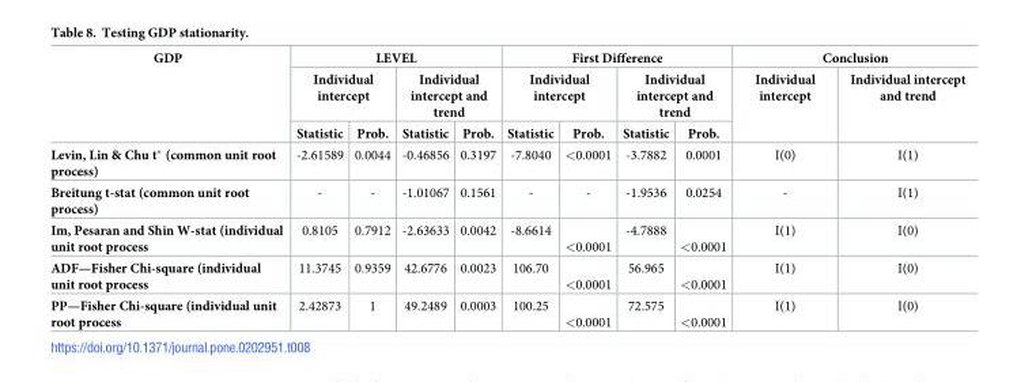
<table><thead><tr><td rowspan="3">GDP</td><td colspan="4">LEVEL</td><td colspan="4">First Difference</td><td colspan="2">Conclusion</td></tr><tr><td colspan="2">Individual intercept</td><td colspan="2">Individual intercept and trend</td><td colspan="2">Individual intercept</td><td colspan="2">Individual intercept and trend</td><td rowspan="2">Individual intercept</td><td rowspan="2">Individual intercept and trend</td></tr><tr><td>Statistic</td><td>Prob.</td><td>Statistic</td><td>Prob.</td><td>Statistic</td><td>Prob.</td><td>Statistic</td><td>Prob.</td></tr></thead><tbody><tr><td>Levin, Lin &amp; Chu t* (common unit root process)</td><td>-2.61589</td><td>0.0044</td><td>-0.46856</td><td>0.3197</td><td>-7.8040</td><td>&lt;0.0001</td><td>-3.7882</td><td>0.0001</td><td>I(0)</td><td>I(1)</td></tr><tr><td>Breitung t-stat (common unit root process)</td><td>-</td><td>-</td><td>-1.01067</td><td>0.1561</td><td>-</td><td>-</td><td>-1.9536</td><td>0.0254</td><td>-</td><td>I(1)</td></tr><tr><td>Im, Pesaran and Shin W-stat (individual unit root process</td><td>0.8105</td><td>0.7912</td><td>-2.63633</td><td>0.0042</td><td>-8.6614</td><td>&lt;0.0001</td><td>-4.7888</td><td>&lt;0.0001</td><td>I(1)</td><td>I(0)</td></tr><tr><td>ADF—Fisher Chi-square (individual unit root process</td><td>11.3745</td><td>0.9359</td><td>42.6776</td><td>0.0023</td><td>106.70</td><td>&lt;0.0001</td><td>56.965</td><td>&lt;0.0001</td><td>I(1)</td><td>I(0)</td></tr><tr><td>PP—Fisher Chi-square (individual unit root process</td><td>2.42873</td><td>1</td><td>49.2489</td><td>0.0003</td><td>100.25</td><td>&lt;0.0001</td><td>72.575</td><td>&lt;0.0001</td><td>I(1)</td><td>I(0)</td></tr></tbody></table>